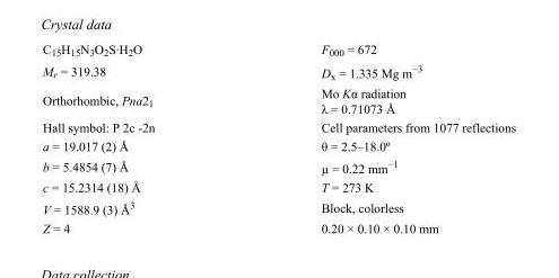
<table><tbody><tr><td>C<sub>15</sub>H<sub>15</sub>N<sub>3</sub>O<sub>2</sub>S·H<sub>2</sub>O</td><td>F000 = 672</td></tr><tr><td>M<sub>r</sub> = 319.38</td><td>D<sub>x</sub> = 1.335 Mg m<sup>−3</sup></td></tr><tr><td>Orthorhombic, Pna2<sub>1</sub></td><td>Mo Kα radiation λ = 0.71073 Å</td></tr><tr><td>Hall symbol: P 2c -2n</td><td>Cell parameters from 1077 reflections</td></tr><tr><td>a = 19.017 (2) Å</td><td>θ = 2.5–18.0º</td></tr><tr><td>b = 5.4854 (7) Å</td><td>µ = 0.22 mm<sup>−1</sup></td></tr><tr><td>c = 15.2314 (18) Å</td><td>T = 273 K</td></tr><tr><td>V = 1588.9 (3) Å<sup>3</sup></td><td>Block, colorless</td></tr><tr><td>Z = 4</td><td>0.20 × 0.10 × 0.10 mm</td></tr></tbody></table>